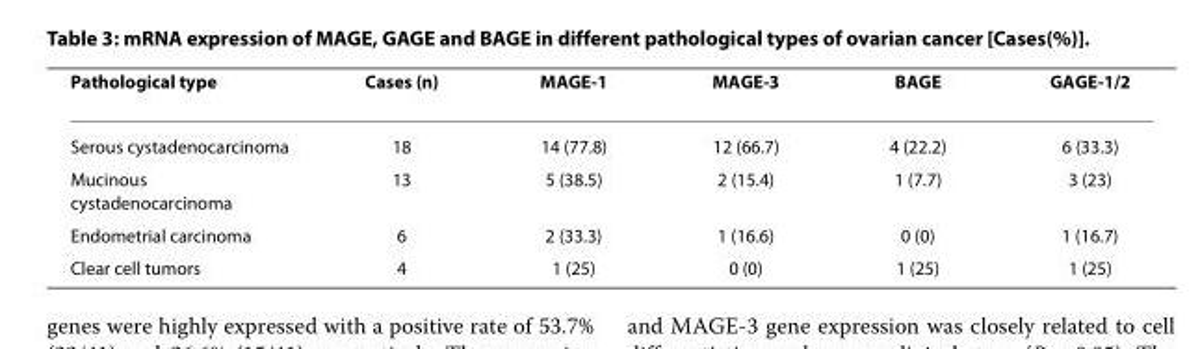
<table><thead><tr><td>Pathological type</td><td>Cases (n)</td><td>MAGE-1</td><td>MAGE-3</td><td>BAGE</td><td>GAGE-1/2</td></tr></thead><tbody><tr><td>Serous cystadenocarcinoma</td><td>18</td><td>14 (77.8)</td><td>12 (66.7)</td><td>4 (22.2)</td><td>6 (33.3)</td></tr><tr><td>Mucinous cystadenocarcinoma</td><td>13</td><td>5 (38.5)</td><td>2 (15.4)</td><td>1 (7.7)</td><td>3 (23)</td></tr><tr><td>Endometrial carcinoma</td><td>6</td><td>2 (33.3)</td><td>1 (16.6)</td><td>0 (0)</td><td>1 (16.7)</td></tr><tr><td>Clear cell tumors</td><td>4</td><td>1 (25)</td><td>0 (0)</td><td>1 (25)</td><td>1 (25)</td></tr></tbody></table>